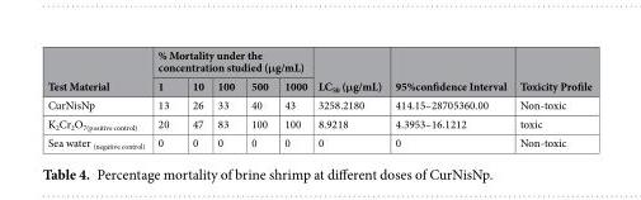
<table><thead><tr><td rowspan="2">Test Material</td><td colspan="5">% Mortality under the concentration studied (μg/mL)</td><td rowspan="2">LC<sub>50</sub> (μg/mL)</td><td rowspan="2">95%confidence Interval</td><td rowspan="2">Toxicity Profile</td></tr><tr><td>1</td><td>10</td><td>100</td><td>500</td><td>1000</td></tr></thead><tbody><tr><td>CurNisNp</td><td>13</td><td>26</td><td>33</td><td>40</td><td>43</td><td>3258.2180</td><td>414.15–28705360.00</td><td>Non-toxic</td></tr><tr><td>K<sub>2</sub>Cr<sub>2</sub>O<sub>7(positive control)</sub></td><td>20</td><td>47</td><td>83</td><td>100</td><td>100</td><td>8.9218</td><td>4.3953–16.1212</td><td>toxic</td></tr><tr><td>Sea water <sub>(negative control)</sub></td><td>0</td><td>0</td><td>0</td><td>0</td><td>0</td><td>0</td><td>0</td><td>Non-toxic</td></tr></tbody></table>